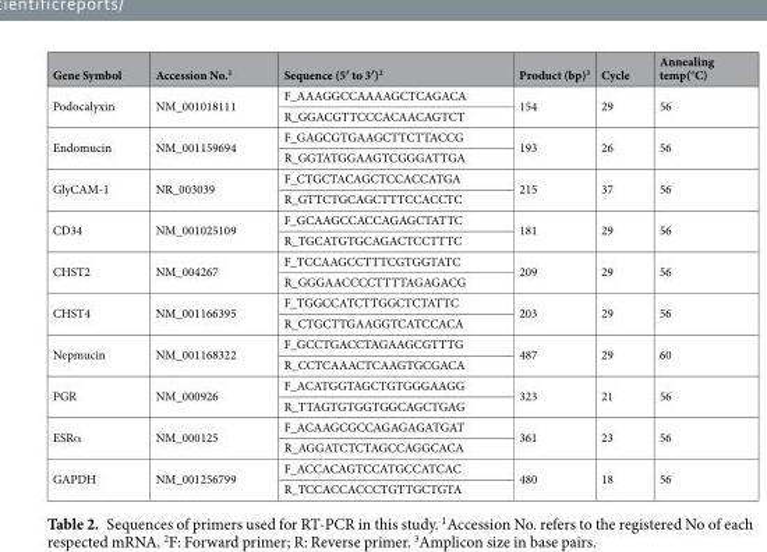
<table><thead><tr><td>Gene Symbol</td><td>Accession No.<sup>1</sup></td><td>Sequence (5′ to 3′)<sup>2</sup></td><td>Product (bp)<sup>3</sup></td><td>Cycle</td><td>Annealing temp(°C)</td></tr></thead><tbody><tr><td rowspan="2">Podocalyxin</td><td rowspan="2">NM_001018111</td><td>F_AAAGGCCAAAAGCTCAGACA</td><td rowspan="2">154</td><td rowspan="2">29</td><td rowspan="2">56</td></tr><tr><td>R_GGACGTTCCCACAACAGTCT</td></tr><tr><td rowspan="2">Endomucin</td><td rowspan="2">NM_001159694</td><td>F_GAGCGTGAAGCTTCTTACCG</td><td rowspan="2">193</td><td rowspan="2">26</td><td rowspan="2">56</td></tr><tr><td>R_GGTATGGAAGTCGGGATTGA</td></tr><tr><td rowspan="2">GlyCAM-1</td><td rowspan="2">NR_003039</td><td>F_CTGCTACAGCTCCACCATGA</td><td rowspan="2">215</td><td rowspan="2">37</td><td rowspan="2">56</td></tr><tr><td>R_GTTCTGCAGCTTTCCACCTC</td></tr><tr><td rowspan="2">CD34</td><td rowspan="2">NM_001025109</td><td>F_GCAAGCCACCAGAGCTATTC</td><td rowspan="2">181</td><td rowspan="2">29</td><td rowspan="2">56</td></tr><tr><td>R_TGCATGTGCAGACTCCTTTC</td></tr><tr><td rowspan="2">CHST2</td><td rowspan="2">NM_004267</td><td>F_TCCAAGCCTTTCGTGGTATC</td><td rowspan="2">209</td><td rowspan="2">29</td><td rowspan="2">56</td></tr><tr><td>R_GGGAACCCCTTTTAGAGACG</td></tr><tr><td rowspan="2">CHST4</td><td rowspan="2">NM_001166395</td><td>F_TGGCCATCTTGGCTCTATTC</td><td rowspan="2">203</td><td rowspan="2">29</td><td rowspan="2">56</td></tr><tr><td>R_CTGCTTGAAGGTCATCCACA</td></tr><tr><td rowspan="2">Nepmucin</td><td rowspan="2">NM_001168322</td><td>F_GCCTGACCTAGAAGCGTTTG</td><td rowspan="2">487</td><td rowspan="2">29</td><td rowspan="2">60</td></tr><tr><td>R_CCTCAAACTCAAGTGCGACA</td></tr><tr><td rowspan="2">PGR</td><td rowspan="2">NM_000926</td><td>F_ACATGGTAGCTGTGGGAAGG</td><td rowspan="2">323</td><td rowspan="2">21</td><td rowspan="2">56</td></tr><tr><td>R_TTAGTGTGGTGGCAGCTGAG</td></tr><tr><td rowspan="2">ESRα</td><td rowspan="2">NM_000125</td><td>F_ACAAGCGCCAGAGAGATGAT</td><td rowspan="2">361</td><td rowspan="2">23</td><td rowspan="2">56</td></tr><tr><td>R_AGGATCTCTAGCCAGGCACA</td></tr><tr><td rowspan="2">GAPDH</td><td rowspan="2">NM_001256799</td><td>F_ACCACAGTCCATGCCATCAC</td><td rowspan="2">480</td><td rowspan="2">18</td><td rowspan="2">56</td></tr><tr><td>R_TCCACCACCCTGTTGCTGTA</td></tr></tbody></table>